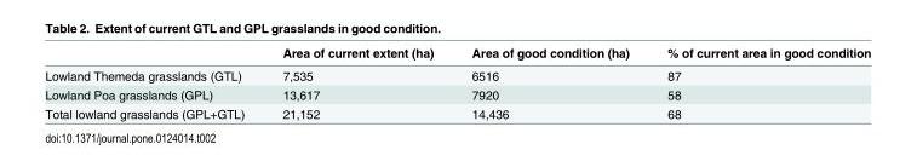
<table><thead><tr><td></td><td>Area of current extent (ha)</td><td>Area of good condition (ha)</td><td>% of current area in good condition</td></tr></thead><tbody><tr><td>Lowland Themeda grasslands (GTL)</td><td>7,535</td><td>6516</td><td>87</td></tr><tr><td>Lowland Poa grasslands (GPL)</td><td>13,617</td><td>7920</td><td>58</td></tr><tr><td>Total lowland grasslands (GPL+GTL)</td><td>21,152</td><td>14,436</td><td>68</td></tr></tbody></table>